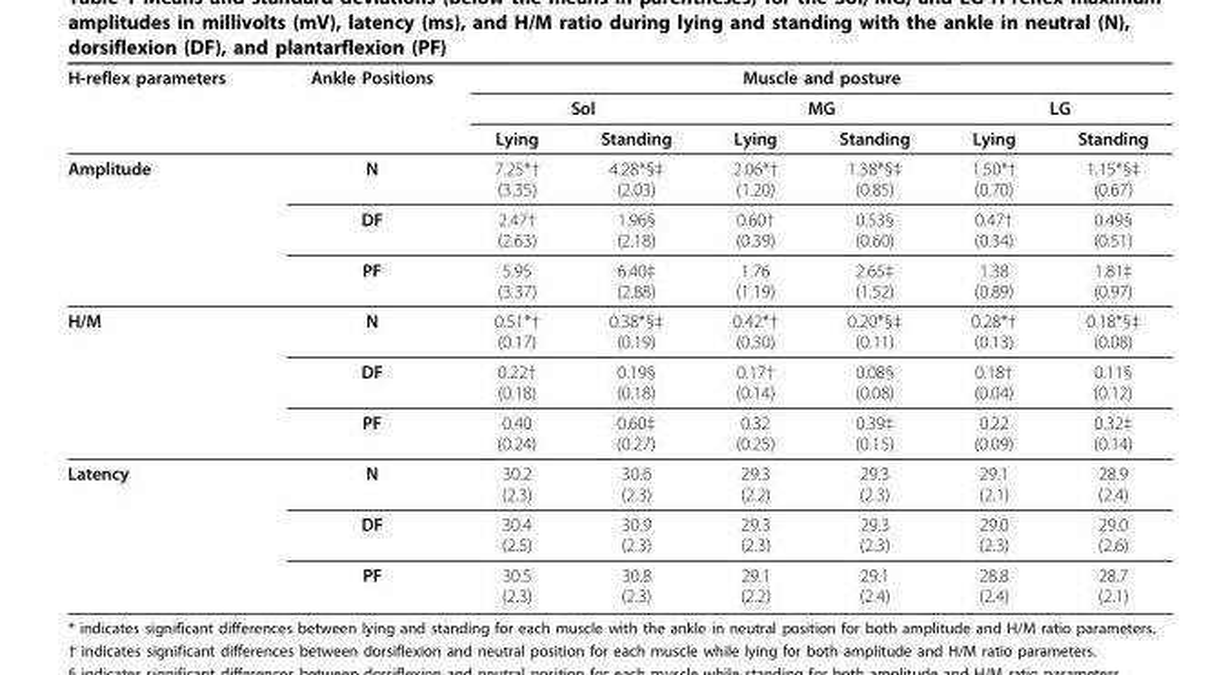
<table><thead><tr><td rowspan="3">H-reflex parameters</td><td rowspan="3">Ankle Positions</td><td colspan="6">Muscle and posture</td></tr><tr><td colspan="2">Sol</td><td colspan="2">MG</td><td colspan="2">LG</td></tr><tr><td>Lying</td><td>Standing</td><td>Lying</td><td>Standing</td><td>Lying</td><td>Standing</td></tr></thead><tbody><tr><td rowspan="3">Amplitude</td><td>N</td><td>7.25*† (3.35)</td><td>4.28*§‡ (2.03)</td><td>2.06*† (1.20)</td><td>1.38*§‡ (0.85)</td><td>1.50*† (0.70)</td><td>1.15*§‡ (0.67)</td></tr><tr><td>DF</td><td>2.47† (2.63)</td><td>1.96§ (2.18)</td><td>0.60† (0.39)</td><td>0.53§ (0.60)</td><td>0.47† (0.34)</td><td>0.49§ (0.51)</td></tr><tr><td>PF</td><td>5.95 (3.37)</td><td>6.40‡ (2.88)</td><td>1.76 (1.19)</td><td>2.65‡ (1.52)</td><td>1.38 (0.89)</td><td>1.81‡ (0.97)</td></tr><tr><td rowspan="3">H/M</td><td>N</td><td>0.51*† (0.17)</td><td>0.38*§‡ (0.19)</td><td>0.42*† (0.30)</td><td>0.20*§‡ (0.11)</td><td>0.28*† (0.13)</td><td>0.18*§‡ (0.08)</td></tr><tr><td>DF</td><td>0.22† (0.18)</td><td>0.19§ (0.18)</td><td>0.17† (0.14)</td><td>0.08§ (0.08)</td><td>0.18† (0.04)</td><td>0.11§ (0.12)</td></tr><tr><td>PF</td><td>0.40 (0.24)</td><td>0.60‡ (0.27)</td><td>0.32 (0.25)</td><td>0.39‡ (0.15)</td><td>0.22 (0.09)</td><td>0.32‡ (0.14)</td></tr><tr><td rowspan="3">Latency</td><td>N</td><td>30.2 (2.3)</td><td>30.6 (2.3)</td><td>29.3 (2.2)</td><td>29.3 (2.3)</td><td>29.1 (2.1)</td><td>28.9 (2.4)</td></tr><tr><td>DF</td><td>30.4 (2.5)</td><td>30.9 (2.3)</td><td>29.3 (2.3)</td><td>29.3 (2.3)</td><td>29.0 (2.3)</td><td>29.0 (2.6)</td></tr><tr><td>PF</td><td>30.5 (2.3)</td><td>30.8 (2.3)</td><td>29.1 (2.2)</td><td>29.1 (2.4)</td><td>28.8 (2.4)</td><td>28.7 (2.1)</td></tr></tbody></table>